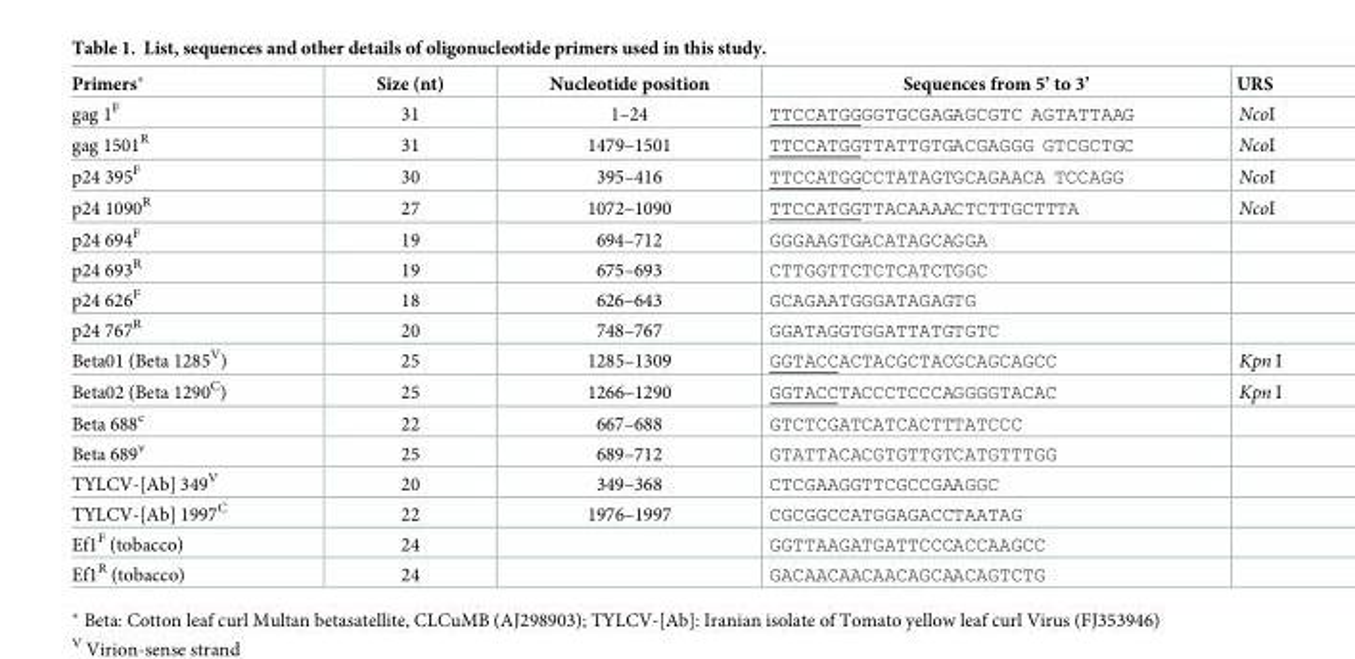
<table><thead><tr><td>Primers*</td><td>Size (nt)</td><td>Nucleotide position</td><td>Sequences from 5’ to 3’</td><td>URS</td></tr></thead><tbody><tr><td>gag 1<sup>F</sup></td><td>31</td><td>1–24</td><td>TTCCATGGGGTGCGAGAGCGTC AGTATTAAG</td><td>NcoI</td></tr><tr><td>gag 1501<sup>R</sup></td><td>31</td><td>1479–1501</td><td>TTCCATGGTTATTGTGACGAGGG GTCGCTGC</td><td>NcoI</td></tr><tr><td>p24 395<sup>F</sup></td><td>30</td><td>395–416</td><td>TTCCATGGCCTATAGTGCAGAACA TCCAGG</td><td>NcoI</td></tr><tr><td>p24 1090<sup>R</sup></td><td>27</td><td>1072–1090</td><td>TTCCATGGTTACAAAACTCTTGCTTTA</td><td>NcoI</td></tr><tr><td>p24 694<sup>F</sup></td><td>19</td><td>694–712</td><td>GGGAAGTGACATAGCAGGA</td><td></td></tr><tr><td>p24 693<sup>R</sup></td><td>19</td><td>675–693</td><td>CTTGGTTCTCTCATCTGGC</td><td></td></tr><tr><td>p24 626<sup>F</sup></td><td>18</td><td>626–643</td><td>GCAGAATGGGATAGAGTG</td><td></td></tr><tr><td>p24 767<sup>R</sup></td><td>20</td><td>748–767</td><td>GGATAGGTGGATTATGTGTC</td><td></td></tr><tr><td>Beta01 (Beta 1285<sup>V</sup>)</td><td>25</td><td>1285–1309</td><td>GGTACCACTACGCTACGCAGCAGCC</td><td>Kpn I</td></tr><tr><td>Beta02 (Beta 1290<sup>C</sup>)</td><td>25</td><td>1266–1290</td><td>GGTACCTACCCTCCCAGGGGTACAC</td><td>Kpn I</td></tr><tr><td>Beta 688<sup>c</sup></td><td>22</td><td>667–688</td><td>GTCTCGATCATCACTTTATCCC</td><td></td></tr><tr><td>Beta 689<sup>v</sup></td><td>25</td><td>689–712</td><td>GTATTACACGTGTTGTCATGTTTGG</td><td></td></tr><tr><td>TYLCV-[Ab] 349<sup>V</sup></td><td>20</td><td>349–368</td><td>CTCGAAGGTTCGCCGAAGGC</td><td></td></tr><tr><td>TYLCV-[Ab] 1997<sup>C</sup></td><td>22</td><td>1976–1997</td><td>CGCGGCCATGGAGACCTAATAG</td><td></td></tr><tr><td>Ef1<sup>F</sup> (tobacco)</td><td>24</td><td></td><td>GGTTAAGATGATTCCCACCAAGCC</td><td></td></tr><tr><td>Ef1<sup>R</sup> (tobacco)</td><td>24</td><td></td><td>GACAACAACAACAGCAACAGTCTG</td><td></td></tr></tbody></table>